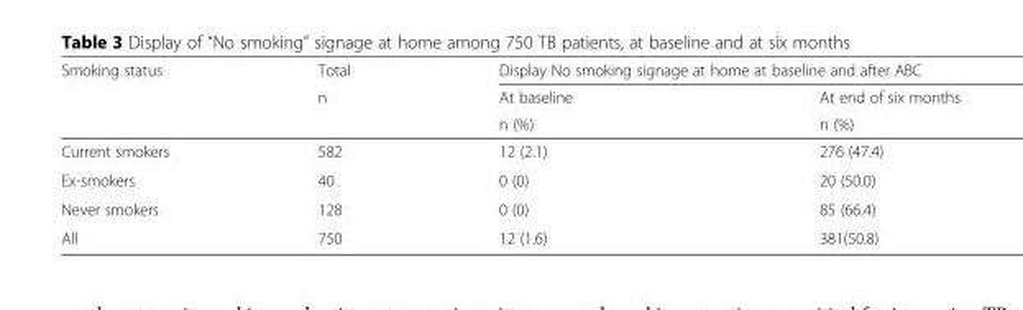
<table><thead><tr><td rowspan="3">Smoking status</td><td rowspan="3">Total n</td><td colspan="2">Display No smoking signage at home at baseline and after ABC</td></tr><tr><td rowspan="2">At baseline n (%)</td><td rowspan="2">At end of six months n (%)</td></tr><tr></tr></thead><tbody><tr><td>Current smokers</td><td>582</td><td>12 (2.1)</td><td>276 (47.4)</td></tr><tr><td>Ex-smokers</td><td>40</td><td>0 (0)</td><td>20 (50.0)</td></tr><tr><td>Never smokers</td><td>128</td><td>0 (0)</td><td>85 (66.4)</td></tr><tr><td>All</td><td>750</td><td>12 (1.6)</td><td>381(50.8)</td></tr></tbody></table>